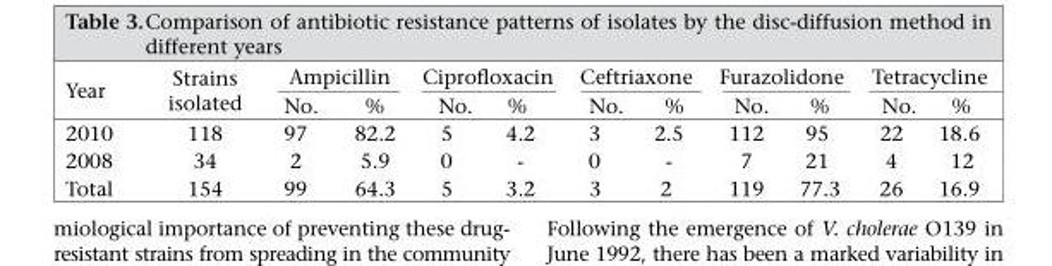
<table><thead><tr><td rowspan="2">Year</td><td rowspan="2">Strains isolated</td><td colspan="2">Ampicillin</td><td colspan="2">Ciprofloxacin</td><td colspan="2">Ceftriaxone</td><td colspan="2">Furazolidone</td><td colspan="2">Tetracycline</td></tr><tr><td>No.</td><td>%</td><td>No.</td><td>%</td><td>No.</td><td>%</td><td>No.</td><td>%</td><td>No.</td><td>%</td></tr></thead><tbody><tr><td>2010</td><td>118</td><td>97</td><td>82.2</td><td>5</td><td>4.2</td><td>3</td><td>2.5</td><td>112</td><td>95</td><td>22</td><td>18.6</td></tr><tr><td>2008</td><td>34</td><td>2</td><td>5.9</td><td>0</td><td>-</td><td>0</td><td>-</td><td>7</td><td>21</td><td>4</td><td>12</td></tr><tr><td>Total</td><td>154</td><td>99</td><td>64.3</td><td>5</td><td>3.2</td><td>3</td><td>2</td><td>119</td><td>77.3</td><td>26</td><td>16.9</td></tr></tbody></table>